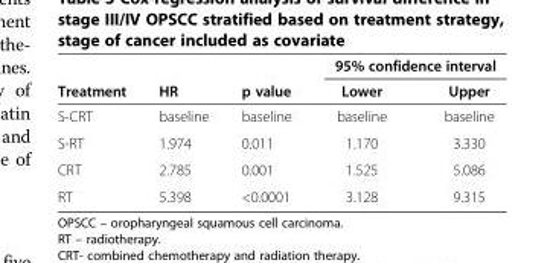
<table><thead><tr><td rowspan="2">Treatment</td><td rowspan="2">HR</td><td rowspan="2">p value</td><td colspan="2">95% confidence interval</td></tr><tr><td>Lower</td><td>Upper</td></tr></thead><tbody><tr><td>S-CRT</td><td>baseline</td><td>baseline</td><td>baseline</td><td>baseline</td></tr><tr><td>S-RT</td><td>1.974</td><td>0.011</td><td>1.170</td><td>3.330</td></tr><tr><td>CRT</td><td>2.785</td><td>0.001</td><td>1.525</td><td>5.086</td></tr><tr><td>RT</td><td>5.398</td><td>&lt;0.0001</td><td>3.128</td><td>9.315</td></tr></tbody></table>